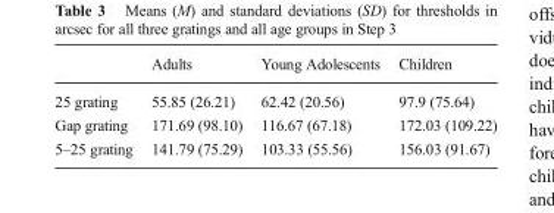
<table><thead><tr><td></td><td>Adults</td><td>Young Adolescents</td><td>Children</td></tr></thead><tbody><tr><td>25 grating</td><td>55.85 (26.21)</td><td>62.42 (20.56)</td><td>97.9 (75.64)</td></tr><tr><td>Gap grating</td><td>171.69 (98.10)</td><td>116.67 (67.18)</td><td>172.03 (109.22)</td></tr><tr><td>5–25 grating</td><td>141.79 (75.29)</td><td>103.33 (55.56)</td><td>156.03 (91.67)</td></tr></tbody></table>